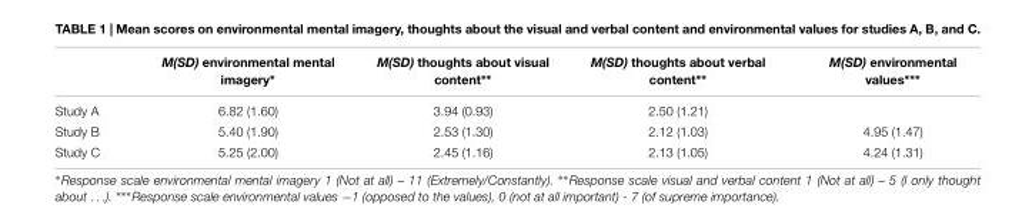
<table><thead><tr><td></td><td>M(SD) environmental mental imagery∗</td><td>M(SD) thoughts about visual content∗∗</td><td>M(SD) thoughts about verbal content∗∗</td><td>M(SD) environmental values∗∗∗</td></tr></thead><tbody><tr><td>Study A</td><td>6.82 (1.60)</td><td>3.94 (0.93)</td><td>2.50 (1.21)</td><td></td></tr><tr><td>Study B</td><td>5.40 (1.90)</td><td>2.53 (1.30)</td><td>2.12 (1.03)</td><td>4.95 (1.47)</td></tr><tr><td>Study C</td><td>5.25 (2.00)</td><td>2.45 (1.16)</td><td>2.13 (1.05)</td><td>4.24 (1.31)</td></tr></tbody></table>